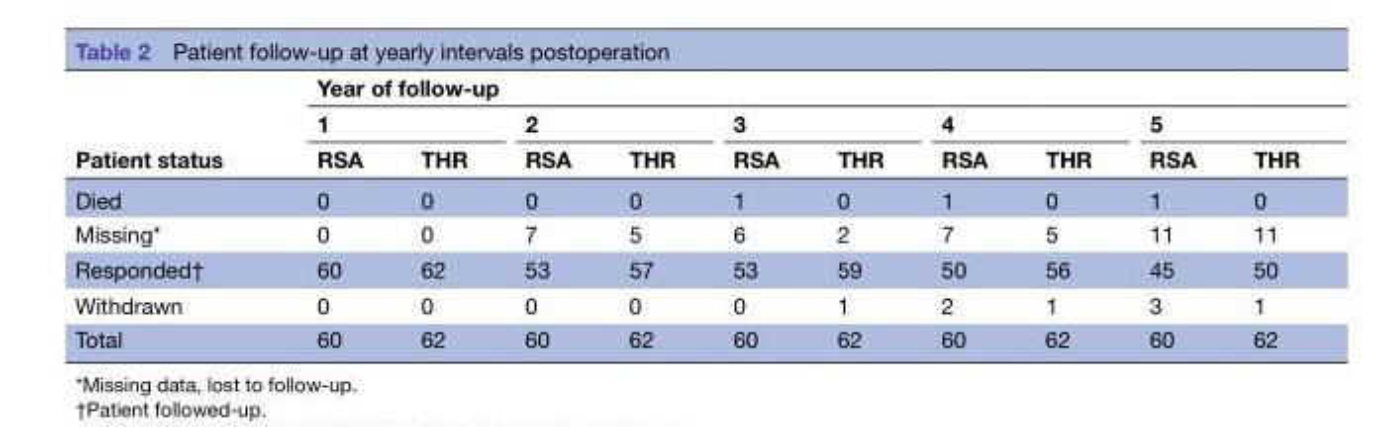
<table><thead><tr><td rowspan="3">Patient status</td><td colspan="10">Year of follow-up</td></tr><tr><td colspan="2">1</td><td colspan="2">2</td><td colspan="2">3</td><td colspan="2">4</td><td colspan="2">5</td></tr><tr><td>RSA</td><td>THR</td><td>RSA</td><td>THR</td><td>RSA</td><td>THR</td><td>RSA</td><td>THR</td><td>RSA</td><td>THR</td></tr></thead><tbody><tr><td>Died</td><td>0</td><td>0</td><td>0</td><td>0</td><td>1</td><td>0</td><td>1</td><td>0</td><td>1</td><td>0</td></tr><tr><td>Missing*</td><td>0</td><td>0</td><td>7</td><td>5</td><td>6</td><td>2</td><td>7</td><td>5</td><td>11</td><td>11</td></tr><tr><td>Responded†</td><td>60</td><td>62</td><td>53</td><td>57</td><td>53</td><td>59</td><td>50</td><td>56</td><td>45</td><td>50</td></tr><tr><td>Withdrawn</td><td>0</td><td>0</td><td>0</td><td>0</td><td>0</td><td>1</td><td>2</td><td>1</td><td>3</td><td>1</td></tr><tr><td>Total</td><td>60</td><td>62</td><td>60</td><td>62</td><td>60</td><td>62</td><td>60</td><td>62</td><td>60</td><td>62</td></tr></tbody></table>